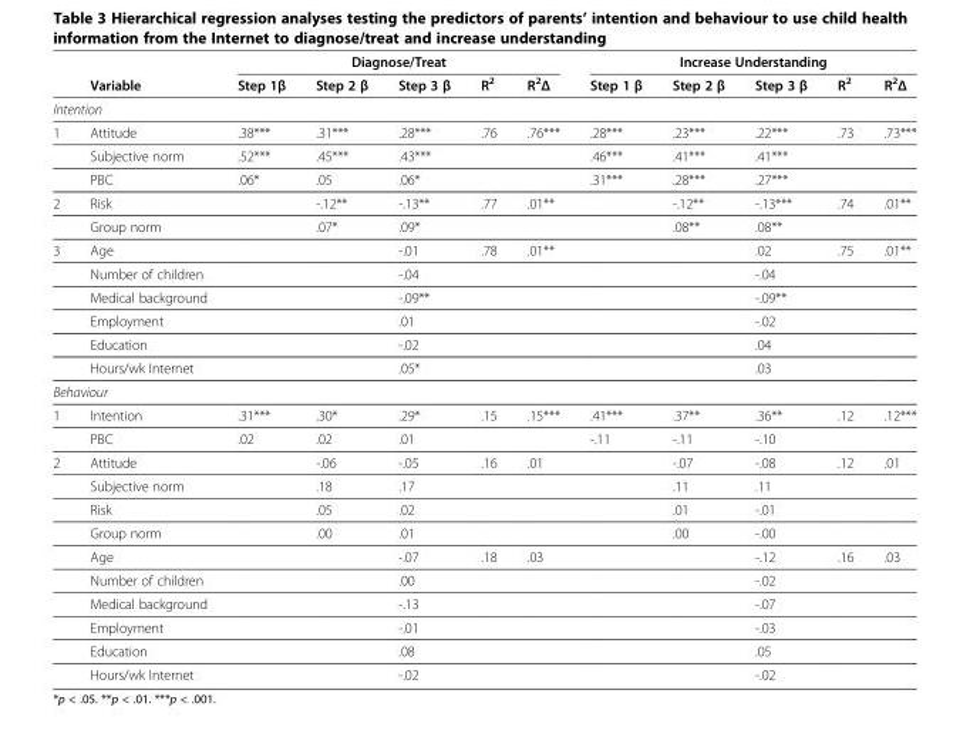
<table><thead><tr><td rowspan="2"></td><td rowspan="2">Variable</td><td colspan="5">Diagnose/Treat</td><td colspan="5">Increase Understanding</td></tr><tr><td>Step 1β</td><td>Step 2 β</td><td>Step 3 β</td><td>R<sup>2</sup></td><td>R<sup>2</sup>Δ</td><td>Step 1 β</td><td>Step 2 β</td><td>Step 3 β</td><td>R<sup>2</sup></td><td>R<sup>2</sup>Δ</td></tr></thead><tbody><tr><td colspan="12">Intention</td></tr><tr><td rowspan="3">1</td><td>Attitude</td><td>.38***</td><td>.31***</td><td>.28***</td><td>.76</td><td>.76***</td><td>.28***</td><td>.23***</td><td>.22***</td><td>.73</td><td>.73***</td></tr><tr><td>Subjective norm</td><td>.52***</td><td>.45***</td><td>.43***</td><td></td><td></td><td>.46***</td><td>.41***</td><td>.41***</td><td></td><td></td></tr><tr><td>PBC</td><td>.06*</td><td>.05</td><td>.06*</td><td></td><td></td><td>.31***</td><td>.28***</td><td>.27***</td><td></td><td></td></tr><tr><td rowspan="2">2</td><td>Risk</td><td></td><td>-.12**</td><td>-.13**</td><td>.77</td><td>.01**</td><td></td><td>-.12**</td><td>-.13***</td><td>.74</td><td>.01**</td></tr><tr><td>Group norm</td><td></td><td>.07*</td><td>.09*</td><td></td><td></td><td></td><td>.08**</td><td>.08**</td><td></td><td></td></tr><tr><td rowspan="6">3</td><td>Age</td><td></td><td></td><td>-.01</td><td>.78</td><td>.01**</td><td></td><td></td><td>.02</td><td>.75</td><td>.01**</td></tr><tr><td>Number of children</td><td></td><td></td><td>-.04</td><td></td><td></td><td></td><td></td><td>-.04</td><td></td><td></td></tr><tr><td>Medical background</td><td></td><td></td><td>-.09**</td><td></td><td></td><td></td><td></td><td>-.09**</td><td></td><td></td></tr><tr><td>Employment</td><td></td><td></td><td>.01</td><td></td><td></td><td></td><td></td><td>-.02</td><td></td><td></td></tr><tr><td>Education</td><td></td><td></td><td>-.02</td><td></td><td></td><td></td><td></td><td>.04</td><td></td><td></td></tr><tr><td>Hours/wk Internet</td><td></td><td></td><td>.05*</td><td></td><td></td><td></td><td></td><td>.03</td><td></td><td></td></tr><tr><td colspan="12">Behaviour</td></tr><tr><td rowspan="2">1</td><td>Intention</td><td>.31***</td><td>.30*</td><td>.29*</td><td>.15</td><td>.15***</td><td>.41***</td><td>.37**</td><td>.36**</td><td>.12</td><td>.12***</td></tr><tr><td>PBC</td><td>.02</td><td>.02</td><td>.01</td><td></td><td></td><td>-.11</td><td>-.11</td><td>-.10</td><td></td><td></td></tr><tr><td rowspan="10">2</td><td>Attitude</td><td></td><td>-.06</td><td>-.05</td><td>.16</td><td>.01</td><td></td><td>-.07</td><td>-.08</td><td>.12</td><td>.01</td></tr><tr><td>Subjective norm</td><td></td><td>.18</td><td>.17</td><td></td><td></td><td></td><td>.11</td><td>.11</td><td></td><td></td></tr><tr><td>Risk</td><td></td><td>.05</td><td>.02</td><td></td><td></td><td></td><td>.01</td><td>-.01</td><td></td><td></td></tr><tr><td>Group norm</td><td></td><td>.00</td><td>.01</td><td></td><td></td><td></td><td>.00</td><td>-.00</td><td></td><td></td></tr><tr><td>Age</td><td></td><td></td><td>-.07</td><td>.18</td><td>.03</td><td></td><td></td><td>-.12</td><td>.16</td><td>.03</td></tr><tr><td>Number of children</td><td></td><td></td><td>.00</td><td></td><td></td><td></td><td></td><td>-.02</td><td></td><td></td></tr><tr><td>Medical background</td><td></td><td></td><td>-.13</td><td></td><td></td><td></td><td></td><td>-.07</td><td></td><td></td></tr><tr><td>Employment</td><td></td><td></td><td>-.01</td><td></td><td></td><td></td><td></td><td>-.03</td><td></td><td></td></tr><tr><td>Education</td><td></td><td></td><td>.08</td><td></td><td></td><td></td><td></td><td>.05</td><td></td><td></td></tr><tr><td>Hours/wk Internet</td><td></td><td></td><td>-.02</td><td></td><td></td><td></td><td></td><td>-.02</td><td></td><td></td></tr></tbody></table>